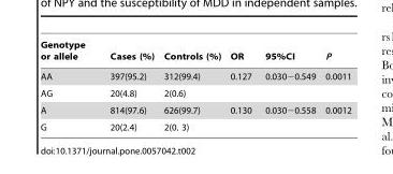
<table><thead><tr><td>Genotype or allele</td><td>Cases (%)</td><td>Controls (%)</td><td>OR</td><td>95%CI</td><td>P</td></tr></thead><tbody><tr><td>AA</td><td>397(95.2)</td><td>312(99.4)</td><td>0.127</td><td>0.030−0.549</td><td>0.0011</td></tr><tr><td>AG</td><td>20(4.8)</td><td>2(0.6)</td><td></td><td></td><td></td></tr><tr><td>A</td><td>814(97.6)</td><td>626(99.7)</td><td>0.130</td><td>0.030−0.558</td><td>0.0012</td></tr><tr><td>G</td><td>20(2.4)</td><td>2(0. 3)</td><td></td><td></td><td></td></tr></tbody></table>